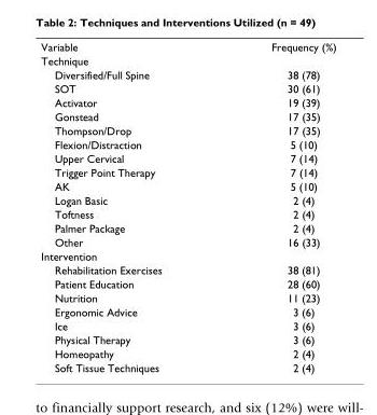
<table><tbody><tr><td>Variable</td><td>Frequency (%)</td></tr><tr><td colspan="2">Technique</td></tr><tr><td>Diversified/Full Spine</td><td>38 (78)</td></tr><tr><td>SOT</td><td>30 (61)</td></tr><tr><td>Activator</td><td>19 (39)</td></tr><tr><td>Gonstead</td><td>17 (35)</td></tr><tr><td>Thompson/Drop</td><td>17 (35)</td></tr><tr><td>Flexion/Distraction</td><td>5 (10)</td></tr><tr><td>Upper Cervical</td><td>7 (14)</td></tr><tr><td>Trigger Point Therapy</td><td>7 (14)</td></tr><tr><td>AK</td><td>5 (10)</td></tr><tr><td>Logan Basic</td><td>2 (4)</td></tr><tr><td>Toftness</td><td>2 (4)</td></tr><tr><td>Palmer Package</td><td>2 (4)</td></tr><tr><td>Other</td><td>16 (33)</td></tr><tr><td colspan="2">Intervention</td></tr><tr><td>Rehabilitation Exercises</td><td>38 (81)</td></tr><tr><td>Patient Education</td><td>28 (60)</td></tr><tr><td>Nutrition</td><td>11 (23)</td></tr><tr><td>Ergonomic Advice</td><td>3 (6)</td></tr><tr><td>Ice</td><td>3 (6)</td></tr><tr><td>Physical Therapy</td><td>3 (6)</td></tr><tr><td>Homeopathy</td><td>2 (4)</td></tr><tr><td>Soft Tissue Techniques</td><td>2 (4)</td></tr></tbody></table>